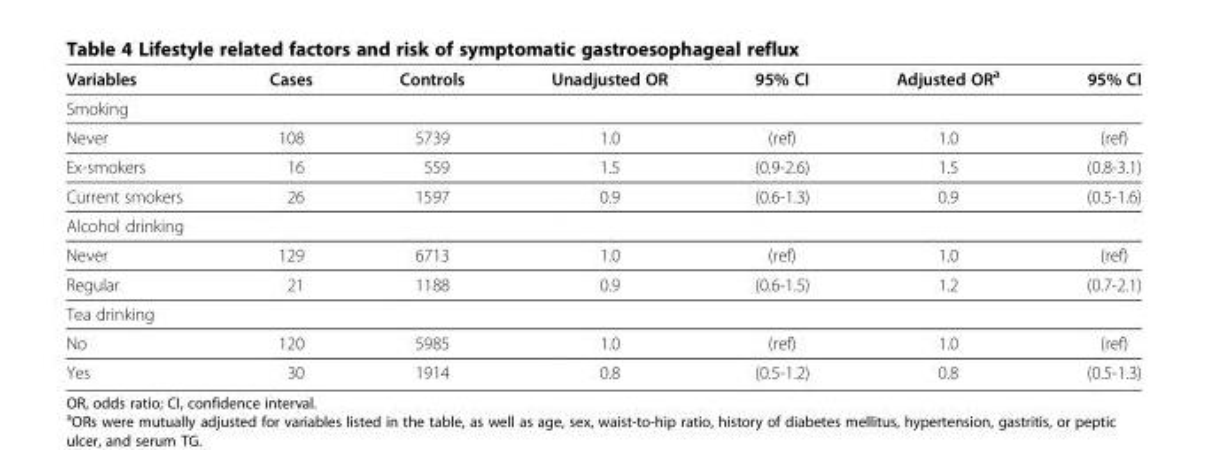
<table><thead><tr><td>Variables</td><td>Cases</td><td>Controls</td><td>Unadjusted OR</td><td>95% CI</td><td>Adjusted OR<sup>a</sup></td><td>95% CI</td></tr></thead><tbody><tr><td colspan="7">Smoking</td></tr><tr><td>Never</td><td>108</td><td>5739</td><td>1.0</td><td>(ref)</td><td>1.0</td><td>(ref)</td></tr><tr><td>Ex-smokers</td><td>16</td><td>559</td><td>1.5</td><td>(0.9-2.6)</td><td>1.5</td><td>(0.8-3.1)</td></tr><tr><td>Current smokers</td><td>26</td><td>1597</td><td>0.9</td><td>(0.6-1.3)</td><td>0.9</td><td>(0.5-1.6)</td></tr><tr><td colspan="7">Alcohol drinking</td></tr><tr><td>Never</td><td>129</td><td>6713</td><td>1.0</td><td>(ref)</td><td>1.0</td><td>(ref)</td></tr><tr><td>Regular</td><td>21</td><td>1188</td><td>0.9</td><td>(0.6-1.5)</td><td>1.2</td><td>(0.7-2.1)</td></tr><tr><td colspan="7">Tea drinking</td></tr><tr><td>No</td><td>120</td><td>5985</td><td>1.0</td><td>(ref)</td><td>1.0</td><td>(ref)</td></tr><tr><td>Yes</td><td>30</td><td>1914</td><td>0.8</td><td>(0.5-1.2)</td><td>0.8</td><td>(0.5-1.3)</td></tr></tbody></table>